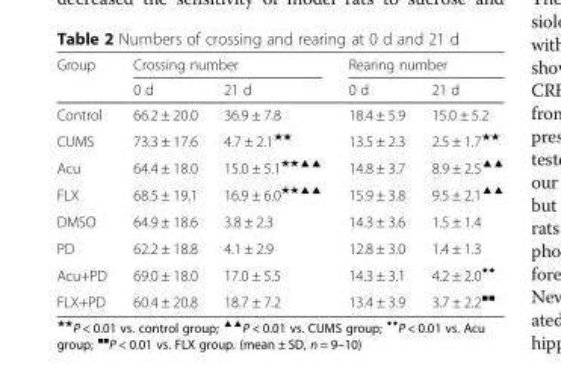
<table><thead><tr><td rowspan="2">Group</td><td colspan="2">Crossing number</td><td colspan="2">Rearing number</td></tr><tr><td>0 d</td><td>21 d</td><td>0 d</td><td>21 d</td></tr></thead><tbody><tr><td>Control</td><td>66.2 ± 20.0</td><td>36.9 ± 7.8</td><td>18.4 ± 5.9</td><td>15.0 ± 5.2</td></tr><tr><td>CUMS</td><td>73.3 ± 17.6</td><td>4.7 ± 2.1<sup>★★</sup></td><td>13.5 ± 2.3</td><td>2.5 ± 1.7<sup>★★</sup></td></tr><tr><td>Acu</td><td>64.4 ± 18.0</td><td>15.0 ± 5.1<sup>★★▲▲</sup></td><td>14.8 ± 3.7</td><td>8.9 ± 2.5<sup>▲▲</sup></td></tr><tr><td>FLX</td><td>68.5 ± 19.1</td><td>16.9 ± 6.0<sup>★★▲▲</sup></td><td>15.9 ± 3.8</td><td>9.5 ± 2.1<sup>▲▲</sup></td></tr><tr><td>DMSO</td><td>64.9 ± 18.6</td><td>3.8 ± 2.3</td><td>14.3 ± 3.6</td><td>1.5 ± 1.4</td></tr><tr><td>PD</td><td>62.2 ± 18.8</td><td>4.1 ± 2.9</td><td>12.8 ± 3.0</td><td>1.4 ± 1.3</td></tr><tr><td>Acu+PD</td><td>69.0 ± 18.0</td><td>17.0 ± 5.5</td><td>14.3 ± 3.1</td><td>4.2 ± 2.0<sup>◆◆</sup></td></tr><tr><td>FLX+PD</td><td>60.4 ± 20.8</td><td>18.7 ± 7.2</td><td>13.4 ± 3.9</td><td>3.7 ± 2.2<sup>■■</sup></td></tr></tbody></table>